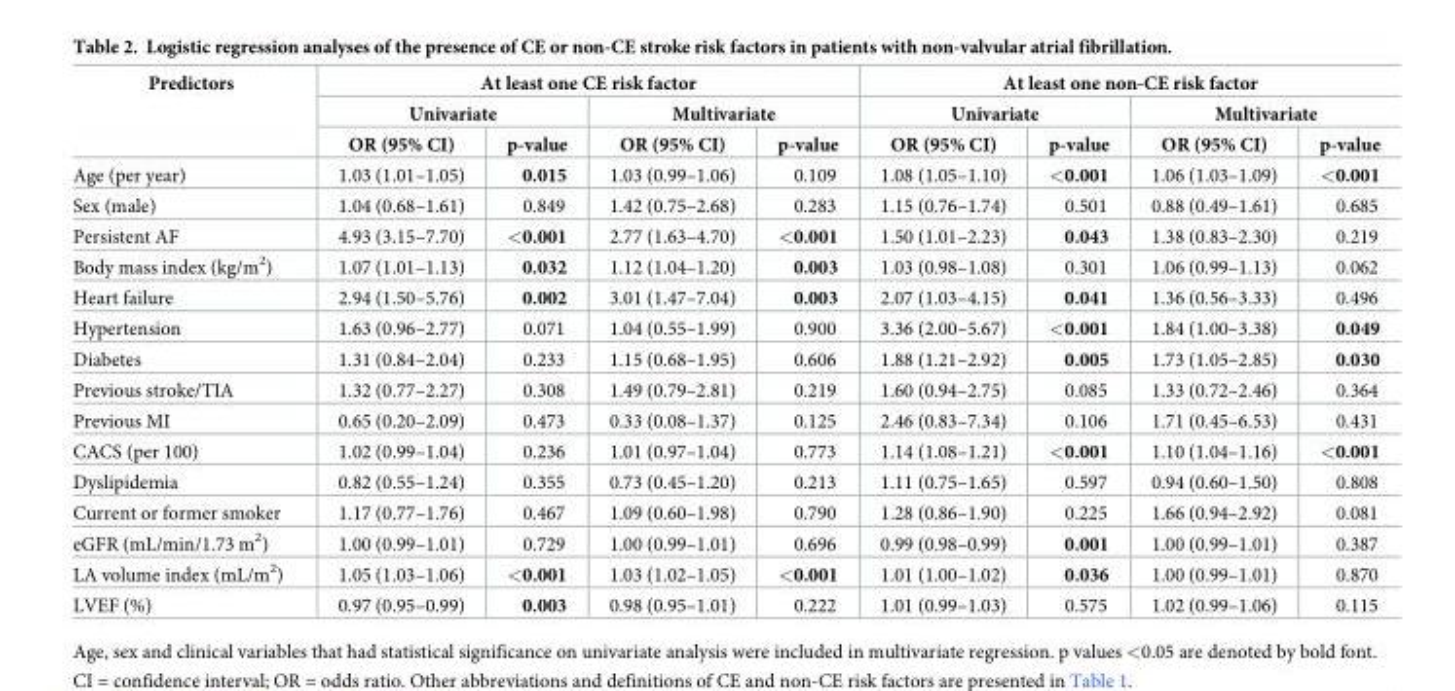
<table><thead><tr><td rowspan="3">Predictors</td><td colspan="4">At least one CE risk factor</td><td colspan="4">At least one non-CE risk factor</td></tr><tr><td colspan="2">Univariate</td><td colspan="2">Multivariate</td><td colspan="2">Univariate</td><td colspan="2">Multivariate</td></tr><tr><td>OR (95% CI)</td><td>p-value</td><td>OR (95% CI)</td><td>p-value</td><td>OR (95% CI)</td><td>p-value</td><td>OR (95% CI)</td><td>p-value</td></tr></thead><tbody><tr><td>Age (per year)</td><td>1.03 (1.01–1.05)</td><td>0.015</td><td>1.03 (0.99–1.06)</td><td>0.109</td><td>1.08 (1.05–1.10)</td><td>&lt;0.001</td><td>1.06 (1.03–1.09)</td><td>&lt;0.001</td></tr><tr><td>Sex (male)</td><td>1.04 (0.68–1.61)</td><td>0.849</td><td>1.42 (0.75–2.68)</td><td>0.283</td><td>1.15 (0.76–1.74)</td><td>0.501</td><td>0.88 (0.49–1.61)</td><td>0.685</td></tr><tr><td>Persistent AF</td><td>4.93 (3.15–7.70)</td><td>&lt;0.001</td><td>2.77 (1.63–4.70)</td><td>&lt;0.001</td><td>1.50 (1.01–2.23)</td><td>0.043</td><td>1.38 (0.83–2.30)</td><td>0.219</td></tr><tr><td>Body mass index (kg/m<sup>2</sup>)</td><td>1.07 (1.01–1.13)</td><td>0.032</td><td>1.12 (1.04–1.20)</td><td>0.003</td><td>1.03 (0.98–1.08)</td><td>0.301</td><td>1.06 (0.99–1.13)</td><td>0.062</td></tr><tr><td>Heart failure</td><td>2.94 (1.50–5.76)</td><td>0.002</td><td>3.01 (1.47–7.04)</td><td>0.003</td><td>2.07 (1.03–4.15)</td><td>0.041</td><td>1.36 (0.56–3.33)</td><td>0.496</td></tr><tr><td>Hypertension</td><td>1.63 (0.96–2.77)</td><td>0.071</td><td>1.04 (0.55–1.99)</td><td>0.900</td><td>3.36 (2.00–5.67)</td><td>&lt;0.001</td><td>1.84 (1.00–3.38)</td><td>0.049</td></tr><tr><td>Diabetes</td><td>1.31 (0.84–2.04)</td><td>0.233</td><td>1.15 (0.68–1.95)</td><td>0.606</td><td>1.88 (1.21–2.92)</td><td>0.005</td><td>1.73 (1.05–2.85)</td><td>0.030</td></tr><tr><td>Previous stroke/TIA</td><td>1.32 (0.77–2.27)</td><td>0.308</td><td>1.49 (0.79–2.81)</td><td>0.219</td><td>1.60 (0.94–2.75)</td><td>0.085</td><td>1.33 (0.72–2.46)</td><td>0.364</td></tr><tr><td>Previous MI</td><td>0.65 (0.20–2.09)</td><td>0.473</td><td>0.33 (0.08–1.37)</td><td>0.125</td><td>2.46 (0.83–7.34)</td><td>0.106</td><td>1.71 (0.45–6.53)</td><td>0.431</td></tr><tr><td>CACS (per 100)</td><td>1.02 (0.99–1.04)</td><td>0.236</td><td>1.01 (0.97–1.04)</td><td>0.773</td><td>1.14 (1.08–1.21)</td><td>&lt;0.001</td><td>1.10 (1.04–1.16)</td><td>&lt;0.001</td></tr><tr><td>Dyslipidemia</td><td>0.82 (0.55–1.24)</td><td>0.355</td><td>0.73 (0.45–1.20)</td><td>0.213</td><td>1.11 (0.75–1.65)</td><td>0.597</td><td>0.94 (0.60–1.50)</td><td>0.808</td></tr><tr><td>Current or former smoker</td><td>1.17 (0.77–1.76)</td><td>0.467</td><td>1.09 (0.60–1.98)</td><td>0.790</td><td>1.28 (0.86–1.90)</td><td>0.225</td><td>1.66 (0.94–2.92)</td><td>0.081</td></tr><tr><td>eGFR (mL/min/1.73 m<sup>2</sup>)</td><td>1.00 (0.99–1.01)</td><td>0.729</td><td>1.00 (0.99–1.01)</td><td>0.696</td><td>0.99 (0.98–0.99)</td><td>0.001</td><td>1.00 (0.99–1.01)</td><td>0.387</td></tr><tr><td>LA volume index (mL/m<sup>2</sup>)</td><td>1.05 (1.03–1.06)</td><td>&lt;0.001</td><td>1.03 (1.02–1.05)</td><td>&lt;0.001</td><td>1.01 (1.00–1.02)</td><td>0.036</td><td>1.00 (0.99–1.01)</td><td>0.870</td></tr><tr><td>LVEF (%)</td><td>0.97 (0.95–0.99)</td><td>0.003</td><td>0.98 (0.95–1.01)</td><td>0.222</td><td>1.01 (0.99–1.03)</td><td>0.575</td><td>1.02 (0.99–1.06)</td><td>0.115</td></tr></tbody></table>